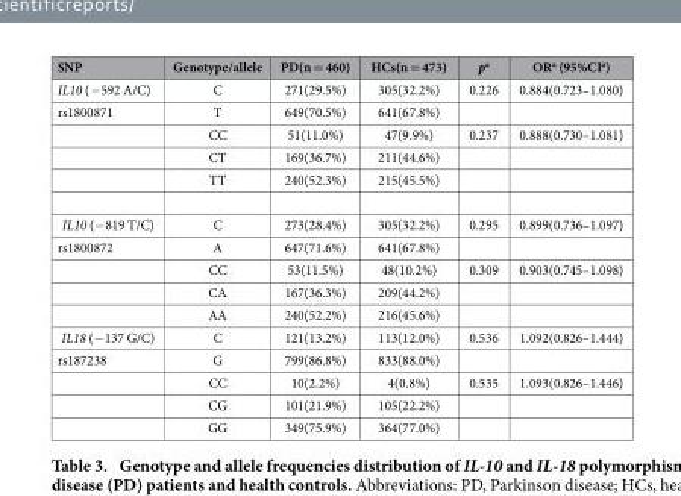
<table><thead><tr><td>SNP</td><td>Genotype/allele</td><td>PD(n = 460)</td><td>HCs(n = 473)</td><td>p<sup>a</sup></td><td>OR<sup>a</sup> (95%CI<sup>a</sup>)</td></tr></thead><tbody><tr><td>IL10 (− 592 A/C)</td><td>C</td><td>271(29.5%)</td><td>305(32.2%)</td><td>0.226</td><td>0.884(0.723–1.080)</td></tr><tr><td rowspan="4">rs1800871</td><td>T</td><td>649(70.5%)</td><td>641(67.8%)</td><td></td><td></td></tr><tr><td>CC</td><td>51(11.0%)</td><td>47(9.9%)</td><td>0.237</td><td>0.888(0.730–1.081)</td></tr><tr><td>CT</td><td>169(36.7%)</td><td>211(44.6%)</td><td></td><td></td></tr><tr><td>TT</td><td>240(52.3%)</td><td>215(45.5%)</td><td></td><td></td></tr><tr><td>IL10 (− 819 T/C)</td><td>C</td><td>273(28.4%)</td><td>305(32.2%)</td><td>0.295</td><td>0.899(0.736–1.097)</td></tr><tr><td rowspan="4">rs1800872</td><td>A</td><td>647(71.6%)</td><td>641(67.8%)</td><td></td><td></td></tr><tr><td>CC</td><td>53(11.5%)</td><td>48(10.2%)</td><td>0.309</td><td>0.903(0.745–1.098)</td></tr><tr><td>CA</td><td>167(36.3%)</td><td>209(44.2%)</td><td></td><td></td></tr><tr><td>AA</td><td>240(52.2%)</td><td>216(45.6%)</td><td></td><td></td></tr><tr><td>IL18 (− 137 G/C)</td><td>C</td><td>121(13.2%)</td><td>113(12.0%)</td><td>0.536</td><td>1.092(0.826–1.444)</td></tr><tr><td rowspan="4">rs187238</td><td>G</td><td>799(86.8%)</td><td>833(88.0%)</td><td></td><td></td></tr><tr><td>CC</td><td>10(2.2%)</td><td>4(0.8%)</td><td>0.535</td><td>1.093(0.826–1.446)</td></tr><tr><td>CG</td><td>101(21.9%)</td><td>105(22.2%)</td><td></td><td></td></tr><tr><td>GG</td><td>349(75.9%)</td><td>364(77.0%)</td><td></td><td></td></tr></tbody></table>